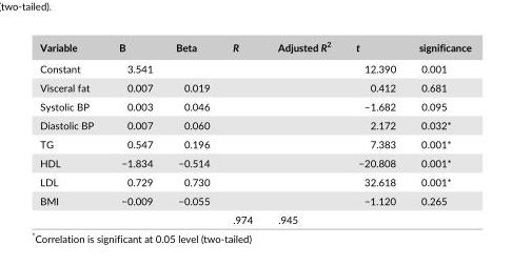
<table><thead><tr><td>Variable</td><td>B</td><td>Beta</td><td>R</td><td>Adjusted R<sup>2</sup></td><td>t</td><td>significance</td></tr></thead><tbody><tr><td>Constant</td><td>3.541</td><td></td><td></td><td></td><td>12.390</td><td>0.001</td></tr><tr><td>Visceral fat</td><td>0.007</td><td>0.019</td><td></td><td></td><td>0.412</td><td>0.681</td></tr><tr><td>Systolic BP</td><td>0.003</td><td>0.046</td><td></td><td></td><td>−1.682</td><td>0.095</td></tr><tr><td>Diastolic BP</td><td>0.007</td><td>0.060</td><td></td><td></td><td>2.172</td><td>0.032*</td></tr><tr><td>TG</td><td>0.547</td><td>0.196</td><td></td><td></td><td>7.383</td><td>0.001*</td></tr><tr><td>HDL</td><td>−1.834</td><td>−0.514</td><td></td><td></td><td>−20.808</td><td>0.001*</td></tr><tr><td>LDL</td><td>0.729</td><td>0.730</td><td></td><td></td><td>32.618</td><td>0.001*</td></tr><tr><td rowspan="2">BMI</td><td>−0.009</td><td>−0.055</td><td></td><td></td><td>−1.120</td><td>0.265</td></tr><tr><td></td><td></td><td>.974</td><td>.945</td><td></td><td></td></tr></tbody></table>